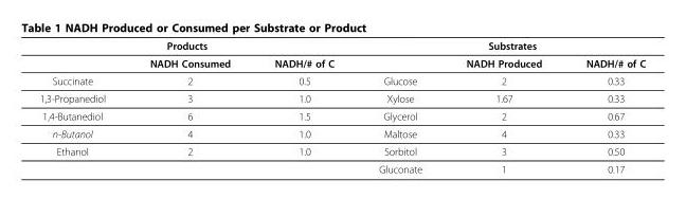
<table><thead><tr><td colspan="3">Products</td><td colspan="3">Substrates</td></tr><tr><td></td><td>NADH Consumed</td><td>NADH/# of C</td><td></td><td>NADH Produced</td><td>NADH/# of C</td></tr></thead><tbody><tr><td>Succinate</td><td>2</td><td>0.5</td><td>Glucose</td><td>2</td><td>0.33</td></tr><tr><td>1,3-Propanediol</td><td>3</td><td>1.0</td><td>Xylose</td><td>1.67</td><td>0.33</td></tr><tr><td>1,4-Butanediol</td><td>6</td><td>1.5</td><td>Glycerol</td><td>2</td><td>0.67</td></tr><tr><td>n-Butanol</td><td>4</td><td>1.0</td><td>Maltose</td><td>4</td><td>0.33</td></tr><tr><td rowspan="2">Ethanol</td><td>2</td><td>1.0</td><td>Sorbitol</td><td>3</td><td>0.50</td></tr><tr><td></td><td></td><td>Gluconate</td><td>1</td><td>0.17</td></tr></tbody></table>